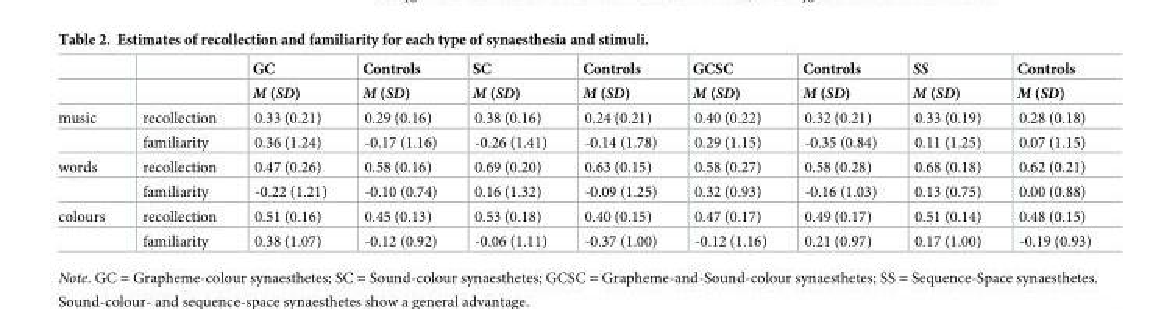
<table><thead><tr><td rowspan="2"></td><td rowspan="2"></td><td rowspan="2">GC M (SD)</td><td rowspan="2">Controls M (SD)</td><td rowspan="2">SC M (SD)</td><td rowspan="2">Controls M (SD)</td><td rowspan="2">GCSC M (SD)</td><td rowspan="2">Controls M (SD)</td><td rowspan="2">SS M (SD)</td><td rowspan="2">Controls M (SD)</td></tr><tr></tr></thead><tbody><tr><td rowspan="2">music</td><td>recollection</td><td>0.33 (0.21)</td><td>0.29 (0.16)</td><td>0.38 (0.16)</td><td>0.24 (0.21)</td><td>0.40 (0.22)</td><td>0.32 (0.21)</td><td>0.33 (0.19)</td><td>0.28 (0.18)</td></tr><tr><td>familiarity</td><td>0.36 (1.24)</td><td>-0.17 (1.16)</td><td>-0.26 (1.41)</td><td>-0.14 (1.78)</td><td>0.29 (1.15)</td><td>-0.35 (0.84)</td><td>0.11 (1.25)</td><td>0.07 (1.15)</td></tr><tr><td rowspan="2">words</td><td>recollection</td><td>0.47 (0.26)</td><td>0.58 (0.16)</td><td>0.69 (0.20)</td><td>0.63 (0.15)</td><td>0.58 (0.27)</td><td>0.58 (0.28)</td><td>0.68 (0.18)</td><td>0.62 (0.21)</td></tr><tr><td>familiarity</td><td>-0.22 (1.21)</td><td>-0.10 (0.74)</td><td>0.16 (1.32)</td><td>-0.09 (1.25)</td><td>0.32 (0.93)</td><td>-0.16 (1.03)</td><td>0.13 (0.75)</td><td>0.00 (0.88)</td></tr><tr><td rowspan="2">colours</td><td>recollection</td><td>0.51 (0.16)</td><td>0.45 (0.13)</td><td>0.53 (0.18)</td><td>0.40 (0.15)</td><td>0.47 (0.17)</td><td>0.49 (0.17)</td><td>0.51 (0.14)</td><td>0.48 (0.15)</td></tr><tr><td>familiarity</td><td>0.38 (1.07)</td><td>-0.12 (0.92)</td><td>-0.06 (1.11)</td><td>-0.37 (1.00)</td><td>-0.12 (1.16)</td><td>0.21 (0.97)</td><td>0.17 (1.00)</td><td>-0.19 (0.93)</td></tr></tbody></table>